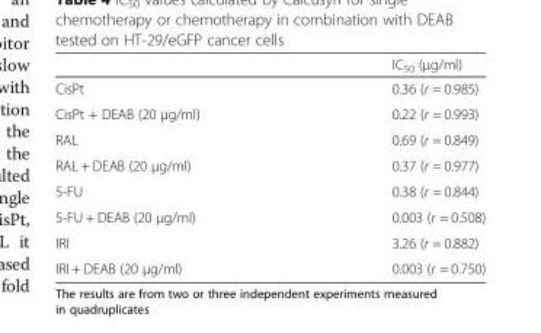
<table><thead><tr><td></td><td>IC<sub>50</sub> (μg/ml)</td></tr></thead><tbody><tr><td>CisPt</td><td>0.36 (r = 0.985)</td></tr><tr><td>CisPt + DEAB (20 μg/ml)</td><td>0.22 (r = 0.993)</td></tr><tr><td>RAL</td><td>0.69 (r = 0.849)</td></tr><tr><td>RAL + DEAB (20 μg/ml)</td><td>0.37 (r = 0.977)</td></tr><tr><td>5-FU</td><td>0.38 (r = 0.844)</td></tr><tr><td>5-FU + DEAB (20 μg/ml)</td><td>0.003 (r = 0.508)</td></tr><tr><td>IRI</td><td>3.26 (r = 0.882)</td></tr><tr><td>IRI + DEAB (20 μg/ml)</td><td>0.003 (r = 0.750)</td></tr></tbody></table>